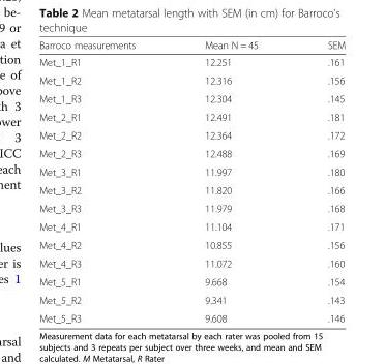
<table><thead><tr><td>Barroco measurements</td><td>Mean N = 45</td><td>SEM</td></tr></thead><tbody><tr><td>Met_1_R1</td><td>12.251</td><td>.161</td></tr><tr><td>Met_1_R2</td><td>12.316</td><td>.156</td></tr><tr><td>Met_1_R3</td><td>12.304</td><td>.145</td></tr><tr><td>Met_2_R1</td><td>12.491</td><td>.181</td></tr><tr><td>Met_2_R2</td><td>12.364</td><td>.172</td></tr><tr><td>Met_2_R3</td><td>12.488</td><td>.169</td></tr><tr><td>Met_3_R1</td><td>11.997</td><td>.180</td></tr><tr><td>Met_3_R2</td><td>11.820</td><td>.166</td></tr><tr><td>Met_3_R3</td><td>11.979</td><td>.168</td></tr><tr><td>Met_4_R1</td><td>11.104</td><td>.171</td></tr><tr><td>Met_4_R2</td><td>10.855</td><td>.156</td></tr><tr><td>Met_4_R3</td><td>11.072</td><td>.160</td></tr><tr><td>Met_5_R1</td><td>9.668</td><td>.154</td></tr><tr><td>Met_5_R2</td><td>9.341</td><td>.143</td></tr><tr><td>Met_5_R3</td><td>9.608</td><td>.146</td></tr></tbody></table>